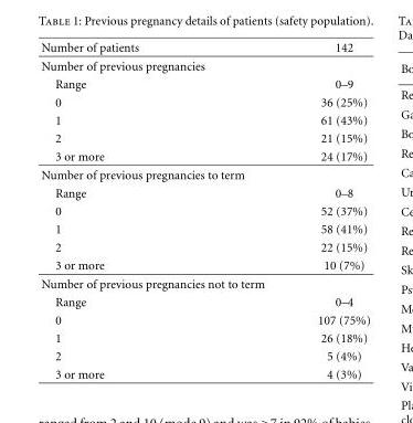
<table><thead><tr><td>Number of patients</td><td>142</td></tr></thead><tbody><tr><td colspan="2">Number of previous pregnancies</td></tr><tr><td>Range</td><td>0–9</td></tr><tr><td>0</td><td>36 (25%)</td></tr><tr><td>1</td><td>61 (43%)</td></tr><tr><td>2</td><td>21 (15%)</td></tr><tr><td>3 or more</td><td>24 (17%)</td></tr><tr><td colspan="2">Number of previous pregnancies to term</td></tr><tr><td>Range</td><td>0–8</td></tr><tr><td>0</td><td>52 (37%)</td></tr><tr><td>1</td><td>58 (41%)</td></tr><tr><td>2</td><td>22 (15%)</td></tr><tr><td>3 or more</td><td>10 (7%)</td></tr><tr><td colspan="2">Number of previous pregnancies not to term</td></tr><tr><td>Range</td><td>0–4</td></tr><tr><td>0</td><td>107 (75%)</td></tr><tr><td>1</td><td>26 (18%)</td></tr><tr><td>2</td><td>5 (4%)</td></tr><tr><td>3 or more</td><td>4 (3%)</td></tr></tbody></table>